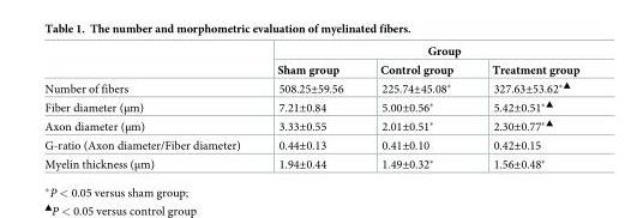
<table><thead><tr><td rowspan="2"></td><td colspan="3">Group</td></tr><tr><td>Sham group</td><td>Control group</td><td>Treatment group</td></tr></thead><tbody><tr><td>Number of fibers</td><td>508.25±59.56</td><td>225.74±45.08*</td><td>327.63±53.62*<sup>▲</sup></td></tr><tr><td>Fiber diameter (μm)</td><td>7.21±0.84</td><td>5.00±0.56*</td><td>5.42±0.51*<sup>▲</sup></td></tr><tr><td>Axon diameter (μm)</td><td>3.33±0.55</td><td>2.01±0.51*</td><td>2.30±0.77*<sup>▲</sup></td></tr><tr><td>G-ratio (Axon diameter/Fiber diameter)</td><td>0.44±0.13</td><td>0.41±0.10</td><td>0.42±0.15</td></tr><tr><td>Myelin thickness (μm)</td><td>1.94±0.44</td><td>1.49±0.32*</td><td>1.56±0.48*</td></tr></tbody></table>